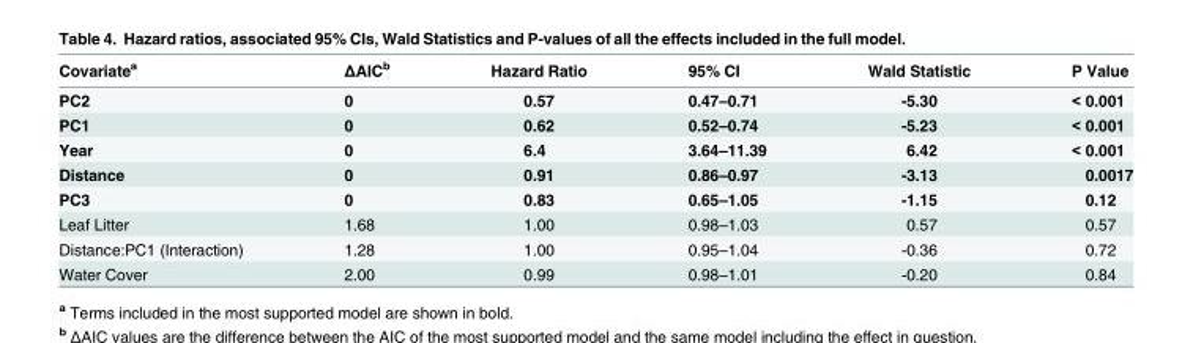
<table><thead><tr><td>Covariate<sup>a</sup></td><td>ΔAIC<sup>b</sup></td><td>Hazard Ratio</td><td>95% CI</td><td>Wald Statistic</td><td>P Value</td></tr></thead><tbody><tr><td>PC2</td><td>0</td><td>0.57</td><td>0.47–0.71</td><td>-5.30</td><td>&lt; 0.001</td></tr><tr><td>PC1</td><td>0</td><td>0.62</td><td>0.52–0.74</td><td>-5.23</td><td>&lt; 0.001</td></tr><tr><td>Year</td><td>0</td><td>6.4</td><td>3.64–11.39</td><td>6.42</td><td>&lt; 0.001</td></tr><tr><td>Distance</td><td>0</td><td>0.91</td><td>0.86–0.97</td><td>-3.13</td><td>0.0017</td></tr><tr><td>PC3</td><td>0</td><td>0.83</td><td>0.65–1.05</td><td>-1.15</td><td>0.12</td></tr><tr><td>Leaf Litter</td><td>1.68</td><td>1.00</td><td>0.98–1.03</td><td>0.57</td><td>0.57</td></tr><tr><td>Distance:PC1 (Interaction)</td><td>1.28</td><td>1.00</td><td>0.95–1.04</td><td>-0.36</td><td>0.72</td></tr><tr><td>Water Cover</td><td>2.00</td><td>0.99</td><td>0.98–1.01</td><td>-0.20</td><td>0.84</td></tr></tbody></table>